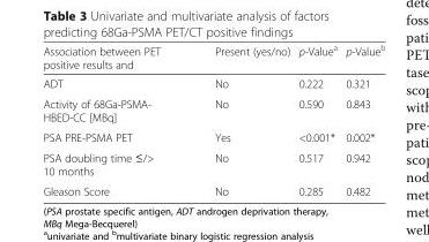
<table><thead><tr><td>Association between PET positive results and</td><td>Present (yes/no)</td><td>p-Value<sup>a</sup></td><td>p-Value<sup>b</sup></td></tr></thead><tbody><tr><td>ADT</td><td>No</td><td>0.222</td><td>0.321</td></tr><tr><td>Activity of 68Ga-PSMA- HBED-CC [MBq]</td><td>No</td><td>0.590</td><td>0.843</td></tr><tr><td>PSA PRE-PSMA PET</td><td>Yes</td><td>&lt;0.001*</td><td>0.002*</td></tr><tr><td>PSA doubling time ≤/&gt; 10 months</td><td>No</td><td>0.517</td><td>0.942</td></tr><tr><td>Gleason Score</td><td>No</td><td>0.285</td><td>0.482</td></tr></tbody></table>